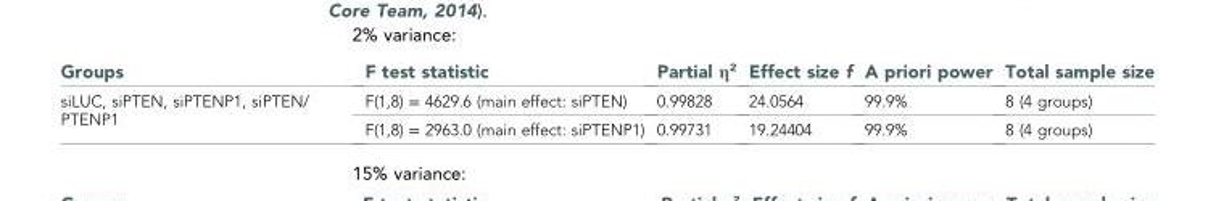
<table><thead><tr><td>Groups</td><td>F test statistic</td><td>Partial η<sup>2</sup></td><td>Effect size f</td><td>A priori power</td><td>Total sample size</td></tr></thead><tbody><tr><td rowspan="2">siLUC, siPTEN, siPTENP1, siPTEN/ PTENP1</td><td>F(1,8) = 4629.6 (main effect: siPTEN)</td><td>0.99828</td><td>24.0564</td><td>99.9%</td><td>8 (4 groups)</td></tr><tr><td>F(1,8) = 2963.0 (main effect: siPTENP1)</td><td>0.99731</td><td>19.24404</td><td>99.9%</td><td>8 (4 groups)</td></tr></tbody></table>